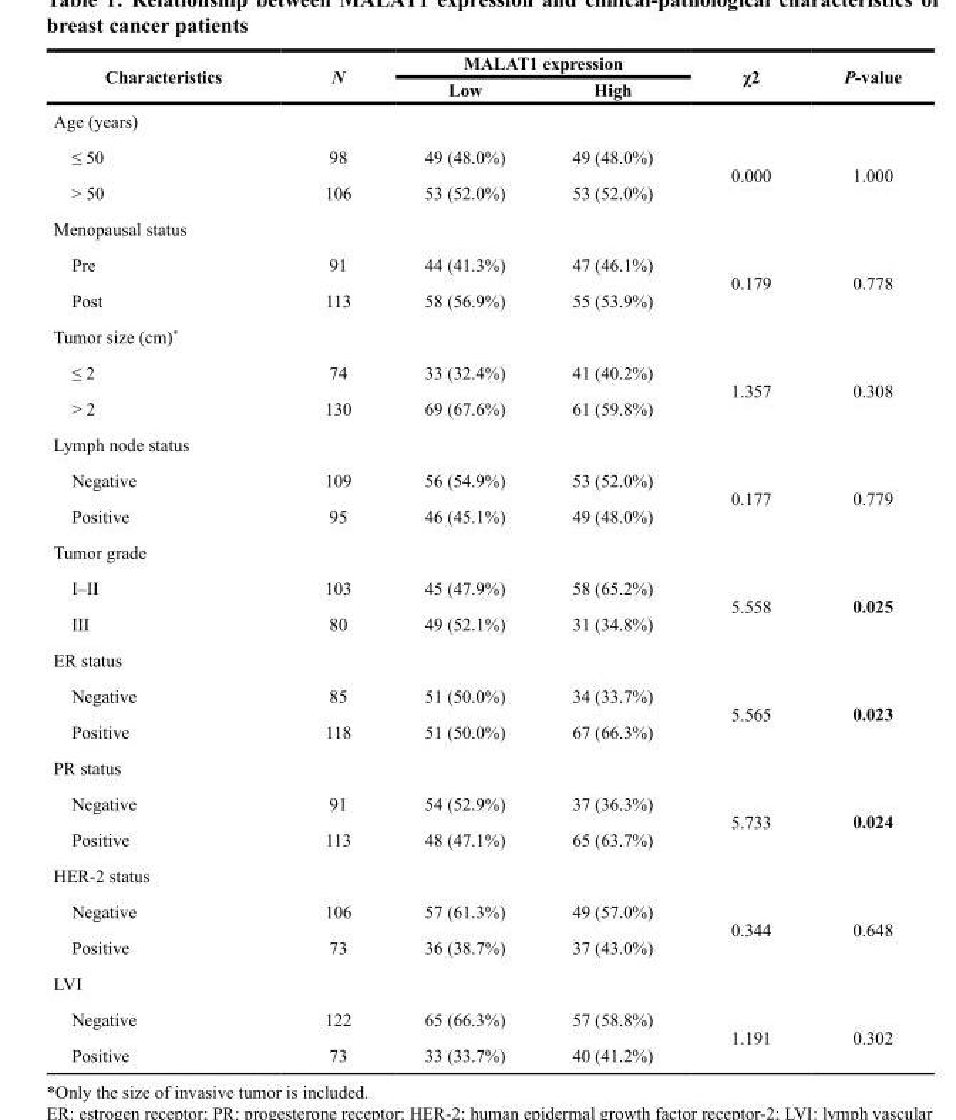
<table><thead><tr><td rowspan="2">Characteristics</td><td rowspan="2">N</td><td colspan="2">MALAT1 expression</td><td rowspan="2">χ2</td><td rowspan="2">P-value</td></tr><tr><td>Low</td><td>High</td></tr></thead><tbody><tr><td colspan="6">Age (years)</td></tr><tr><td>≤ 50</td><td>98</td><td>49 (48.0%)</td><td>49 (48.0%)</td><td rowspan="2">0.000</td><td rowspan="2">1.000</td></tr><tr><td>&gt; 50</td><td>106</td><td>53 (52.0%)</td><td>53 (52.0%)</td></tr><tr><td colspan="6">Menopausal status</td></tr><tr><td>Pre</td><td>91</td><td>44 (41.3%)</td><td>47 (46.1%)</td><td rowspan="2">0.179</td><td rowspan="2">0.778</td></tr><tr><td>Post</td><td>113</td><td>58 (56.9%)</td><td>55 (53.9%)</td></tr><tr><td colspan="6">Tumor size (cm)*</td></tr><tr><td>≤ 2</td><td>74</td><td>33 (32.4%)</td><td>41 (40.2%)</td><td rowspan="2">1.357</td><td rowspan="2">0.308</td></tr><tr><td>&gt; 2</td><td>130</td><td>69 (67.6%)</td><td>61 (59.8%)</td></tr><tr><td colspan="6">Lymph node status</td></tr><tr><td>Negative</td><td>109</td><td>56 (54.9%)</td><td>53 (52.0%)</td><td rowspan="2">0.177</td><td rowspan="2">0.779</td></tr><tr><td>Positive</td><td>95</td><td>46 (45.1%)</td><td>49 (48.0%)</td></tr><tr><td colspan="6">Tumor grade</td></tr><tr><td>I–II</td><td>103</td><td>45 (47.9%)</td><td>58 (65.2%)</td><td rowspan="2">5.558</td><td rowspan="2">0.025</td></tr><tr><td>III</td><td>80</td><td>49 (52.1%)</td><td>31 (34.8%)</td></tr><tr><td colspan="6">ER status</td></tr><tr><td>Negative</td><td>85</td><td>51 (50.0%)</td><td>34 (33.7%)</td><td rowspan="2">5.565</td><td rowspan="2">0.023</td></tr><tr><td>Positive</td><td>118</td><td>51 (50.0%)</td><td>67 (66.3%)</td></tr><tr><td colspan="6">PR status</td></tr><tr><td>Negative</td><td>91</td><td>54 (52.9%)</td><td>37 (36.3%)</td><td rowspan="2">5.733</td><td rowspan="2">0.024</td></tr><tr><td>Positive</td><td>113</td><td>48 (47.1%)</td><td>65 (63.7%)</td></tr><tr><td colspan="6">HER-2 status</td></tr><tr><td>Negative</td><td>106</td><td>57 (61.3%)</td><td>49 (57.0%)</td><td rowspan="2">0.344</td><td rowspan="2">0.648</td></tr><tr><td>Positive</td><td>73</td><td>36 (38.7%)</td><td>37 (43.0%)</td></tr><tr><td colspan="6">LVI</td></tr><tr><td>Negative</td><td>122</td><td>65 (66.3%)</td><td>57 (58.8%)</td><td rowspan="2">1.191</td><td rowspan="2">0.302</td></tr><tr><td>Positive</td><td>73</td><td>33 (33.7%)</td><td>40 (41.2%)</td></tr></tbody></table>